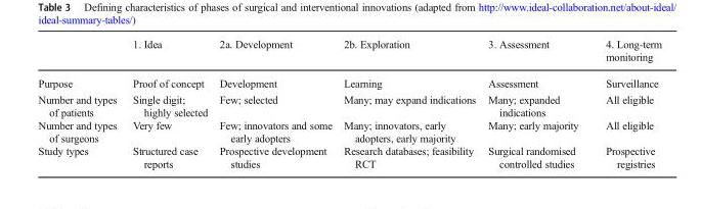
<table><thead><tr><td></td><td>1. Idea</td><td>2a. Development</td><td>2b. Exploration</td><td>3. Assessment</td><td>4. Long-term monitoring</td></tr></thead><tbody><tr><td>Purpose</td><td>Proof of concept</td><td>Development</td><td>Learning</td><td>Assessment</td><td>Surveillance</td></tr><tr><td>Number and types of patients</td><td>Single digit; highly selected</td><td>Few; selected</td><td>Many; may expand indications</td><td>Many; expanded indications</td><td>All eligible</td></tr><tr><td>Number and types of surgeons</td><td>Very few</td><td>Few; innovators and some early adopters</td><td>Many; innovators, early adopters, early majority</td><td>Many; early majority</td><td>All eligible</td></tr><tr><td>Study types</td><td>Structured case reports</td><td>Prospective development studies</td><td>Research databases; feasibility RCT</td><td>Surgical randomised controlled studies</td><td>Prospective registries</td></tr></tbody></table>